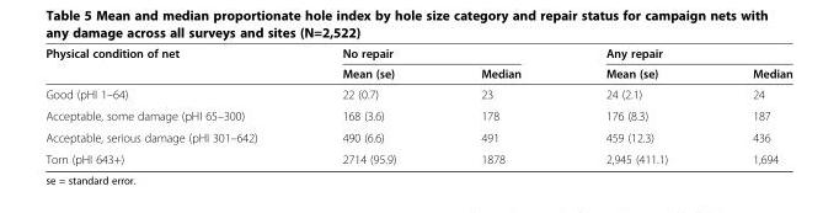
<table><thead><tr><td rowspan="2">Physical condition of net</td><td colspan="2">No repair</td><td colspan="2">Any repair</td></tr><tr><td>Mean (se)</td><td>Median</td><td>Mean (se)</td><td>Median</td></tr></thead><tbody><tr><td>Good (pHI 1–64)</td><td>22 (0.7)</td><td>23</td><td>24 (2.1)</td><td>24</td></tr><tr><td>Acceptable, some damage (pHI 65–300)</td><td>168 (3.6)</td><td>178</td><td>176 (8.3)</td><td>187</td></tr><tr><td>Acceptable, serious damage (pHI 301–642)</td><td>490 (6.6)</td><td>491</td><td>459 (12.3)</td><td>436</td></tr><tr><td>Torn (pHI 643+)</td><td>2714 (95.9)</td><td>1878</td><td>2,945 (411.1)</td><td>1,694</td></tr></tbody></table>